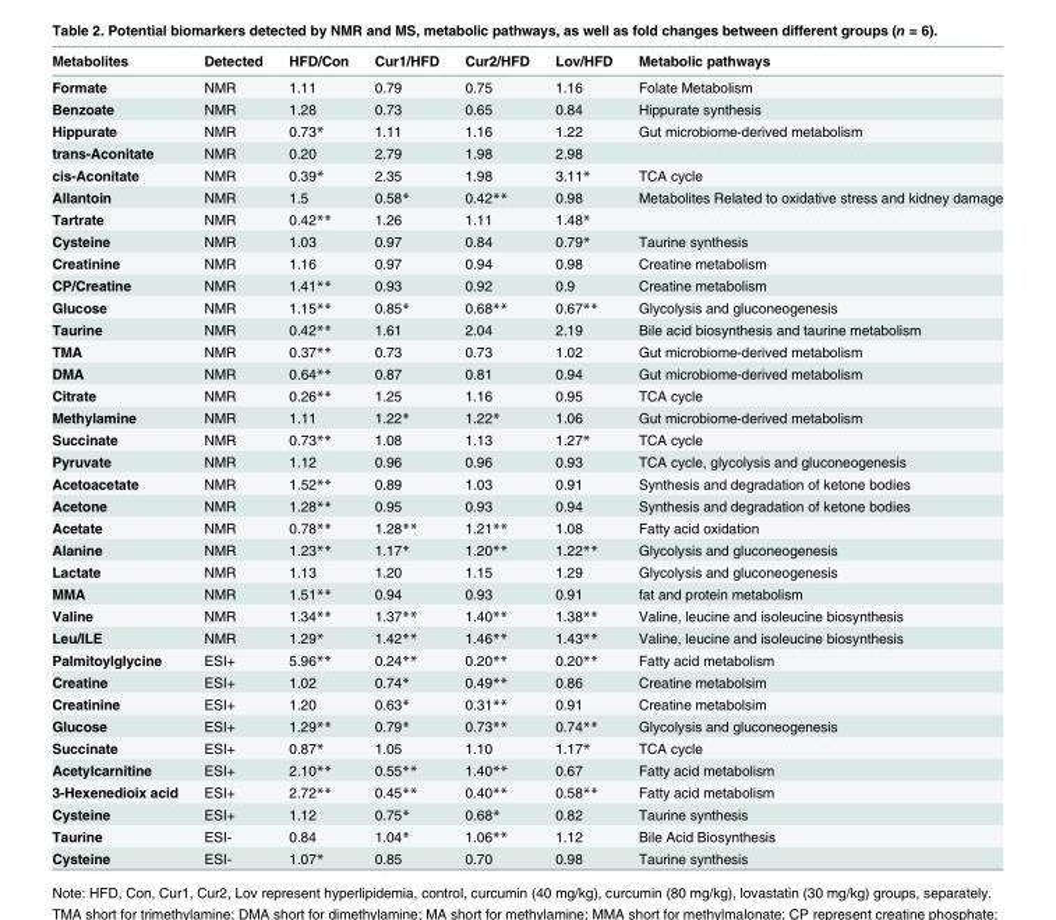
<table><thead><tr><td>Metabolites</td><td>Detected</td><td>HFD/Con</td><td>Cur1/HFD</td><td>Cur2/HFD</td><td>Lov/HFD</td><td>Metabolic pathways</td></tr></thead><tbody><tr><td>Formate</td><td>NMR</td><td>1.11</td><td>0.79</td><td>0.75</td><td>1.16</td><td>Folate Metabolism</td></tr><tr><td>Benzoate</td><td>NMR</td><td>1.28</td><td>0.73</td><td>0.65</td><td>0.84</td><td>Hippurate synthesis</td></tr><tr><td>Hippurate</td><td>NMR</td><td>0.73*</td><td>1.11</td><td>1.16</td><td>1.22</td><td>Gut microbiome-derived metabolism</td></tr><tr><td>trans-Aconitate</td><td>NMR</td><td>0.20</td><td>2.79</td><td>1.98</td><td>2.98</td><td></td></tr><tr><td>cis-Aconitate</td><td>NMR</td><td>0.39*</td><td>2.35</td><td>1.98</td><td>3.11*</td><td>TCA cycle</td></tr><tr><td>Allantoin</td><td>NMR</td><td>1.5</td><td>0.58*</td><td>0.42**</td><td>0.98</td><td>Metabolites Related to oxidative stress and kidney damage</td></tr><tr><td>Tartrate</td><td>NMR</td><td>0.42**</td><td>1.26</td><td>1.11</td><td>1.48*</td><td></td></tr><tr><td>Cysteine</td><td>NMR</td><td>1.03</td><td>0.97</td><td>0.84</td><td>0.79*</td><td>Taurine synthesis</td></tr><tr><td>Creatinine</td><td>NMR</td><td>1.16</td><td>0.97</td><td>0.94</td><td>0.98</td><td>Creatine metabolism</td></tr><tr><td>CP/Creatine</td><td>NMR</td><td>1.41**</td><td>0.93</td><td>0.92</td><td>0.9</td><td>Creatine metabolism</td></tr><tr><td>Glucose</td><td>NMR</td><td>1.15**</td><td>0.85*</td><td>0.68**</td><td>0.67**</td><td>Glycolysis and gluconeogenesis</td></tr><tr><td>Taurine</td><td>NMR</td><td>0.42**</td><td>1.61</td><td>2.04</td><td>2.19</td><td>Bile acid biosynthesis and taurine metabolism</td></tr><tr><td>TMA</td><td>NMR</td><td>0.37**</td><td>0.73</td><td>0.73</td><td>1.02</td><td>Gut microbiome-derived metabolism</td></tr><tr><td>DMA</td><td>NMR</td><td>0.64**</td><td>0.87</td><td>0.81</td><td>0.94</td><td>Gut microbiome-derived metabolism</td></tr><tr><td>Citrate</td><td>NMR</td><td>0.26**</td><td>1.25</td><td>1.16</td><td>0.95</td><td>TCA cycle</td></tr><tr><td>Methylamine</td><td>NMR</td><td>1.11</td><td>1.22*</td><td>1.22*</td><td>1.06</td><td>Gut microbiome-derived metabolism</td></tr><tr><td>Succinate</td><td>NMR</td><td>0.73**</td><td>1.08</td><td>1.13</td><td>1.27*</td><td>TCA cycle</td></tr><tr><td>Pyruvate</td><td>NMR</td><td>1.12</td><td>0.96</td><td>0.96</td><td>0.93</td><td>TCA cycle, glycolysis and gluconeogenesis</td></tr><tr><td>Acetoacetate</td><td>NMR</td><td>1.52**</td><td>0.89</td><td>1.03</td><td>0.91</td><td>Synthesis and degradation of ketone bodies</td></tr><tr><td>Acetone</td><td>NMR</td><td>1.28**</td><td>0.95</td><td>0.93</td><td>0.94</td><td>Synthesis and degradation of ketone bodies</td></tr><tr><td>Acetate</td><td>NMR</td><td>0.78**</td><td>1.28**</td><td>1.21**</td><td>1.08</td><td>Fatty acid oxidation</td></tr><tr><td>Alanine</td><td>NMR</td><td>1.23**</td><td>1.17*</td><td>1.20**</td><td>1.22**</td><td>Glycolysis and gluconeogenesis</td></tr><tr><td>Lactate</td><td>NMR</td><td>1.13</td><td>1.20</td><td>1.15</td><td>1.29</td><td>Glycolysis and gluconeogenesis</td></tr><tr><td>MMA</td><td>NMR</td><td>1.51**</td><td>0.94</td><td>0.93</td><td>0.91</td><td>fat and protein metabolism</td></tr><tr><td>Valine</td><td>NMR</td><td>1.34**</td><td>1.37**</td><td>1.40**</td><td>1.38**</td><td>Valine, leucine and isoleucine biosynthesis</td></tr><tr><td>Leu/ILE</td><td>NMR</td><td>1.29*</td><td>1.42**</td><td>1.46**</td><td>1.43**</td><td>Valine, leucine and isoleucine biosynthesis</td></tr><tr><td>Palmitoylglycine</td><td>ESI+</td><td>5.96**</td><td>0.24**</td><td>0.20**</td><td>0.20**</td><td>Fatty acid metabolism</td></tr><tr><td>Creatine</td><td>ESI+</td><td>1.02</td><td>0.74*</td><td>0.49**</td><td>0.86</td><td>Creatine metabolsim</td></tr><tr><td>Creatinine</td><td>ESI+</td><td>1.20</td><td>0.63*</td><td>0.31**</td><td>0.91</td><td>Creatine metabolsim</td></tr><tr><td>Glucose</td><td>ESI+</td><td>1.29**</td><td>0.79*</td><td>0.73**</td><td>0.74**</td><td>Glycolysis and gluconeogenesis</td></tr><tr><td>Succinate</td><td>ESI+</td><td>0.87*</td><td>1.05</td><td>1.10</td><td>1.17*</td><td>TCA cycle</td></tr><tr><td>Acetylcarnitine</td><td>ESI+</td><td>2.10**</td><td>0.55**</td><td>1.40**</td><td>0.67</td><td>Fatty acid metabolism</td></tr><tr><td>3-Hexenedioix acid</td><td>ESI+</td><td>2.72**</td><td>0.45**</td><td>0.40**</td><td>0.58**</td><td>Fatty acid metabolism</td></tr><tr><td>Cysteine</td><td>ESI+</td><td>1.12</td><td>0.75*</td><td>0.68*</td><td>0.82</td><td>Taurine synthesis</td></tr><tr><td>Taurine</td><td>ESI-</td><td>0.84</td><td>1.04*</td><td>1.06**</td><td>1.12</td><td>Bile Acid Biosynthesis</td></tr><tr><td>Cysteine</td><td>ESI-</td><td>1.07*</td><td>0.85</td><td>0.70</td><td>0.98</td><td>Taurine synthesis</td></tr></tbody></table>